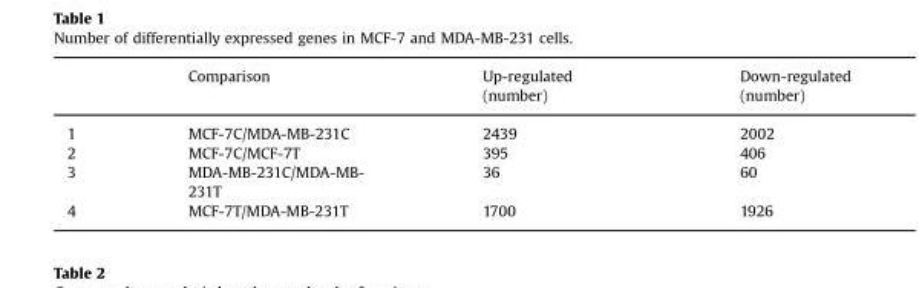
<table><thead><tr><td></td><td>Comparison</td><td>Up-regulated (number)</td><td>Down-regulated (number)</td></tr></thead><tbody><tr><td>1</td><td>MCF-7C/MDA-MB-231C</td><td>2439</td><td>2002</td></tr><tr><td>2</td><td>MCF-7C/MCF-7T</td><td>395</td><td>406</td></tr><tr><td>3</td><td>MDA-MB-231C/MDA-MB- 231T</td><td>36</td><td>60</td></tr><tr><td>4</td><td>MCF-7T/MDA-MB-231T</td><td>1700</td><td>1926</td></tr></tbody></table>